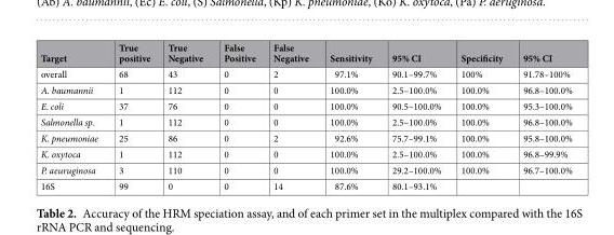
<table><thead><tr><td>Target</td><td>True positive</td><td>True Negative</td><td>False Positive</td><td>False Negative</td><td>Sensitivity</td><td>95% CI</td><td>Specificity</td><td>95% CI</td></tr></thead><tbody><tr><td>overall</td><td>68</td><td>43</td><td>0</td><td>2</td><td>97.1%</td><td>90.1–99.7%</td><td>100%</td><td>91.78–100%</td></tr><tr><td>A. baumannii</td><td>1</td><td>112</td><td>0</td><td>0</td><td>100.0%</td><td>2.5–100.0%</td><td>100.0%</td><td>96.8–100.0%</td></tr><tr><td>E. coli</td><td>37</td><td>76</td><td>0</td><td>0</td><td>100.0%</td><td>90.5–100.0%</td><td>100.0%</td><td>95.3–100.0%</td></tr><tr><td>Salmonella sp.</td><td>1</td><td>112</td><td>0</td><td>0</td><td>100.0%</td><td>2.5–100.0%</td><td>100.0%</td><td>96.8–100.0%</td></tr><tr><td>K. pneumoniae</td><td>25</td><td>86</td><td>0</td><td>2</td><td>92.6%</td><td>75.7–99.1%</td><td>100.0%</td><td>95.8–100.0%</td></tr><tr><td>K. oxytoca</td><td>1</td><td>112</td><td>0</td><td>0</td><td>100.0%</td><td>2.5–100.0%</td><td>100.0%</td><td>96.8–99.9%</td></tr><tr><td>P. aeuruginosa</td><td>3</td><td>110</td><td>0</td><td>0</td><td>100.0%</td><td>29.2–100.0%</td><td>100.0%</td><td>96.7–100.0%</td></tr><tr><td>16S</td><td>99</td><td>0</td><td>0</td><td>14</td><td>87.6%</td><td>80.1–93.1%</td><td></td><td></td></tr></tbody></table>